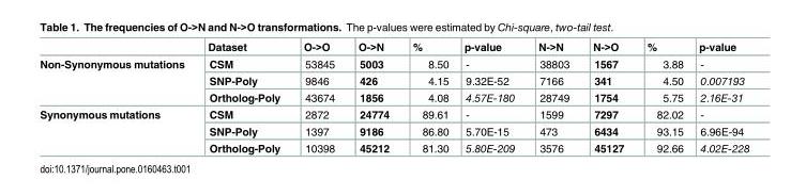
<table><thead><tr><td></td><td>Dataset</td><td>O-&gt;O</td><td>O-&gt;N</td><td>%</td><td>p-value</td><td>N-&gt;N</td><td>N-&gt;O</td><td>%</td><td>p-value</td></tr></thead><tbody><tr><td rowspan="3">Non-Synonymous mutations</td><td>CSM</td><td>53845</td><td>5003</td><td>8.50</td><td>-</td><td>38803</td><td>1567</td><td>3.88</td><td>-</td></tr><tr><td>SNP-Poly</td><td>9846</td><td>426</td><td>4.15</td><td>9.32E-52</td><td>7166</td><td>341</td><td>4.50</td><td>0.007193</td></tr><tr><td>Ortholog-Poly</td><td>43674</td><td>1856</td><td>4.08</td><td>4.57E-180</td><td>28749</td><td>1754</td><td>5.75</td><td>2.16E-31</td></tr><tr><td rowspan="3">Synonymous mutations</td><td>CSM</td><td>2872</td><td>24774</td><td>89.61</td><td>-</td><td>1599</td><td>7297</td><td>82.02</td><td>-</td></tr><tr><td>SNP-Poly</td><td>1397</td><td>9186</td><td>86.80</td><td>5.70E-15</td><td>473</td><td>6434</td><td>93.15</td><td>6.96E-94</td></tr><tr><td>Ortholog-Poly</td><td>10398</td><td>45212</td><td>81.30</td><td>5.80E-209</td><td>3576</td><td>45127</td><td>92.66</td><td>4.02E-228</td></tr></tbody></table>